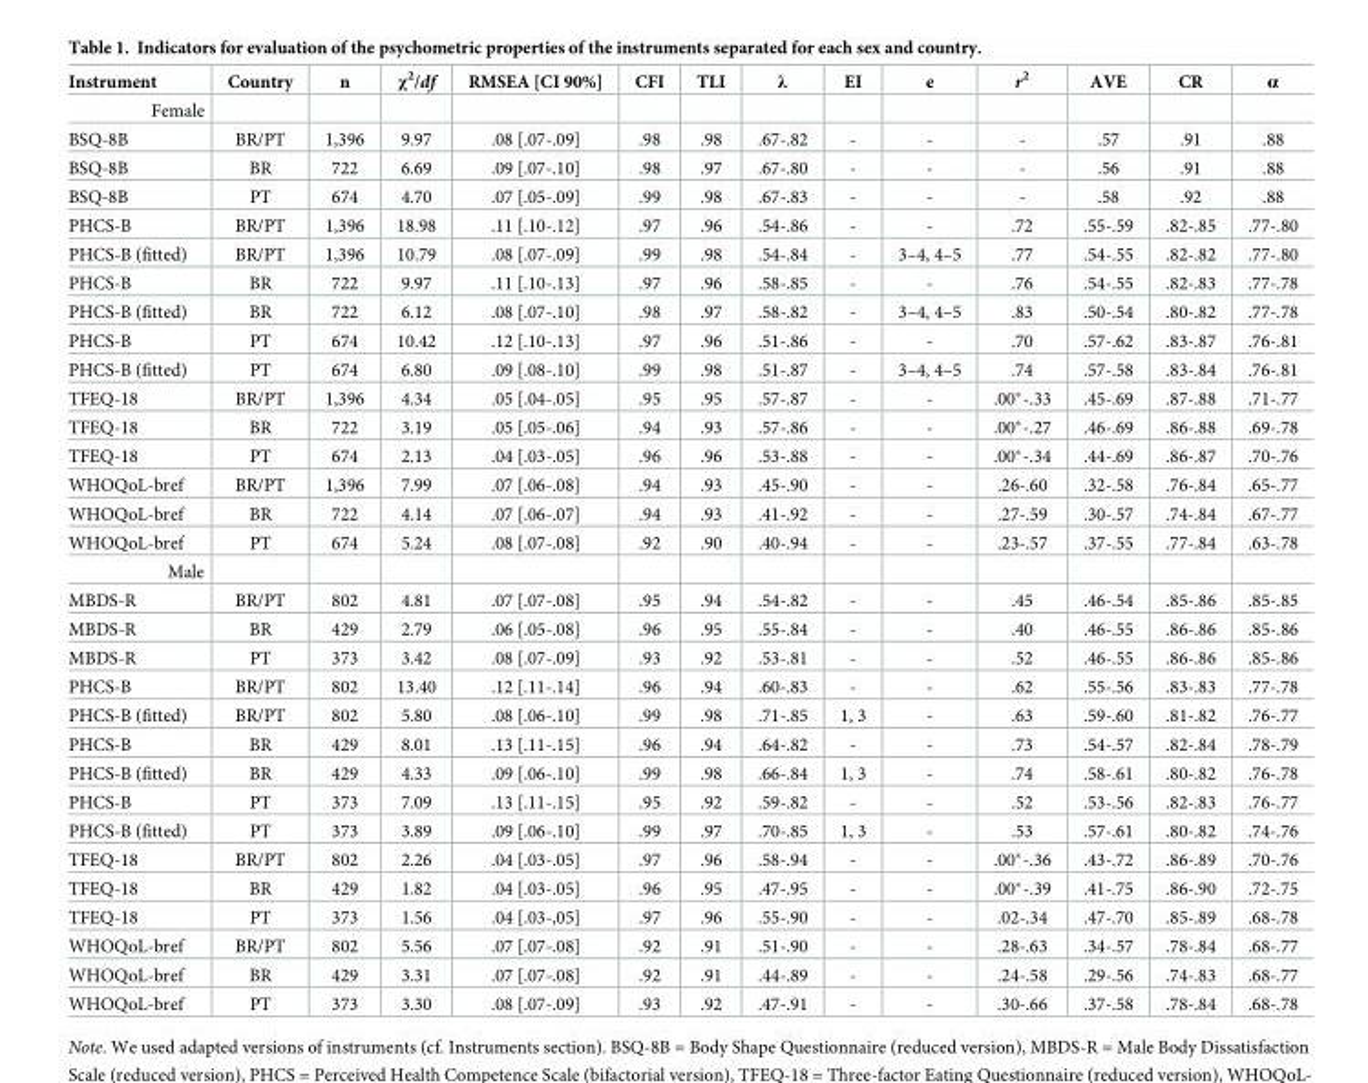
<table><thead><tr><td>Instrument</td><td>Country</td><td>n</td><td>χ<sup>2</sup>/df</td><td>RMSEA [CI 90%]</td><td>CFI</td><td>TLI</td><td>λ</td><td>EI</td><td>e</td><td>r<sup>2</sup></td><td>AVE</td><td>CR</td><td>α</td></tr></thead><tbody><tr><td colspan="14">Female</td></tr><tr><td>BSQ-8B</td><td>BR/PT</td><td>1,396</td><td>9.97</td><td>.08 [.07-.09]</td><td>.98</td><td>.98</td><td>.67-.82</td><td>-</td><td>-</td><td>-</td><td>.57</td><td>.91</td><td>.88</td></tr><tr><td>BSQ-8B</td><td>BR</td><td>722</td><td>6.69</td><td>.09 [.07-.10]</td><td>.98</td><td>.97</td><td>.67-.80</td><td>-</td><td>-</td><td>-</td><td>.56</td><td>.91</td><td>.88</td></tr><tr><td>BSQ-8B</td><td>PT</td><td>674</td><td>4.70</td><td>.07 [.05-.09]</td><td>.99</td><td>.98</td><td>.67-.83</td><td>-</td><td>-</td><td>-</td><td>.58</td><td>.92</td><td>.88</td></tr><tr><td>PHCS-B</td><td>BR/PT</td><td>1,396</td><td>18.98</td><td>.11 [.10-.12]</td><td>.97</td><td>.96</td><td>.54-.86</td><td>-</td><td>-</td><td>.72</td><td>.55-.59</td><td>.82-.85</td><td>.77-.80</td></tr><tr><td>PHCS-B (fitted)</td><td>BR/PT</td><td>1,396</td><td>10.79</td><td>.08 [.07-.09]</td><td>.99</td><td>.98</td><td>.54-.84</td><td>-</td><td>3–4, 4–5</td><td>.77</td><td>.54-.55</td><td>.82-.82</td><td>.77-.80</td></tr><tr><td>PHCS-B</td><td>BR</td><td>722</td><td>9.97</td><td>.11 [.10-.13]</td><td>.97</td><td>.96</td><td>.58-.85</td><td>-</td><td>-</td><td>.76</td><td>.54-.55</td><td>.82-.83</td><td>.77-.78</td></tr><tr><td>PHCS-B (fitted)</td><td>BR</td><td>722</td><td>6.12</td><td>.08 [.07-.10]</td><td>.98</td><td>.97</td><td>.58-.82</td><td>-</td><td>3–4, 4–5</td><td>.83</td><td>.50-.54</td><td>.80-.82</td><td>.77-.78</td></tr><tr><td>PHCS-B</td><td>PT</td><td>674</td><td>10.42</td><td>.12 [.10-.13]</td><td>.97</td><td>.96</td><td>.51-.86</td><td>-</td><td>-</td><td>.70</td><td>.57-.62</td><td>.83-.87</td><td>.76-.81</td></tr><tr><td>PHCS-B (fitted)</td><td>PT</td><td>674</td><td>6.80</td><td>.09 [.08-.10]</td><td>.99</td><td>.98</td><td>.51-.87</td><td>-</td><td>3–4, 4–5</td><td>.74</td><td>.57-.58</td><td>.83-.84</td><td>.76-.81</td></tr><tr><td>TFEQ-18</td><td>BR/PT</td><td>1,396</td><td>4.34</td><td>.05 [.04-.05]</td><td>.95</td><td>.95</td><td>.57-.87</td><td>-</td><td>-</td><td>.00*-.33</td><td>.45-.69</td><td>.87-.88</td><td>.71-.77</td></tr><tr><td>TFEQ-18</td><td>BR</td><td>722</td><td>3.19</td><td>.05 [.05-.06]</td><td>.94</td><td>.93</td><td>.57-.86</td><td>-</td><td>-</td><td>.00*-.27</td><td>.46-.69</td><td>.86-.88</td><td>.69-.78</td></tr><tr><td>TFEQ-18</td><td>PT</td><td>674</td><td>2.13</td><td>.04 [.03-.05]</td><td>.96</td><td>.96</td><td>.53-.88</td><td>-</td><td>-</td><td>.00*-.34</td><td>.44-.69</td><td>.86-.87</td><td>.70-.76</td></tr><tr><td>WHOQoL-bref</td><td>BR/PT</td><td>1,396</td><td>7.99</td><td>.07 [.06-.08]</td><td>.94</td><td>.93</td><td>.45-.90</td><td>-</td><td>-</td><td>.26-.60</td><td>.32-.58</td><td>.76-.84</td><td>.65-.77</td></tr><tr><td>WHOQoL-bref</td><td>BR</td><td>722</td><td>4.14</td><td>.07 [.06-.07]</td><td>.94</td><td>.93</td><td>.41-.92</td><td>-</td><td>-</td><td>.27-.59</td><td>.30-.57</td><td>.74-.84</td><td>.67-.77</td></tr><tr><td>WHOQoL-bref</td><td>PT</td><td>674</td><td>5.24</td><td>.08 [.07-.08]</td><td>.92</td><td>.90</td><td>.40-.94</td><td>-</td><td>-</td><td>.23-.57</td><td>.37-.55</td><td>.77-.84</td><td>.63-.78</td></tr><tr><td colspan="14">Male</td></tr><tr><td>MBDS-R</td><td>BR/PT</td><td>802</td><td>4.81</td><td>.07 [.07-.08]</td><td>.95</td><td>.94</td><td>.54-.82</td><td>-</td><td>-</td><td>.45</td><td>.46-.54</td><td>.85-.86</td><td>.85-.85</td></tr><tr><td>MBDS-R</td><td>BR</td><td>429</td><td>2.79</td><td>.06 [.05-.08]</td><td>.96</td><td>.95</td><td>.55-.84</td><td>-</td><td>-</td><td>.40</td><td>.46-.55</td><td>.86-.86</td><td>.85-.86</td></tr><tr><td>MBDS-R</td><td>PT</td><td>373</td><td>3.42</td><td>.08 [.07-.09]</td><td>.93</td><td>.92</td><td>.53-.81</td><td>-</td><td>-</td><td>.52</td><td>.46-.55</td><td>.86-.86</td><td>.85-.86</td></tr><tr><td>PHCS-B</td><td>BR/PT</td><td>802</td><td>13.40</td><td>.12 [.11-.14]</td><td>.96</td><td>.94</td><td>.60-.83</td><td>-</td><td>-</td><td>.62</td><td>.55-.56</td><td>.83-.83</td><td>.77-.78</td></tr><tr><td>PHCS-B (fitted)</td><td>BR/PT</td><td>802</td><td>5.80</td><td>.08 [.06-.10]</td><td>.99</td><td>.98</td><td>.71-.85</td><td>1, 3</td><td>-</td><td>.63</td><td>.59-.60</td><td>.81-.82</td><td>.76-.77</td></tr><tr><td>PHCS-B</td><td>BR</td><td>429</td><td>8.01</td><td>.13 [.11-.15]</td><td>.96</td><td>.94</td><td>.64-.82</td><td>-</td><td>-</td><td>.73</td><td>.54-.57</td><td>.82-.84</td><td>.78-.79</td></tr><tr><td>PHCS-B (fitted)</td><td>BR</td><td>429</td><td>4.33</td><td>.09 [.06-.10]</td><td>.99</td><td>.98</td><td>.66-.84</td><td>1, 3</td><td>-</td><td>.74</td><td>.58-.61</td><td>.80-.82</td><td>.76-.78</td></tr><tr><td>PHCS-B</td><td>PT</td><td>373</td><td>7.09</td><td>.13 [.11-.15]</td><td>.95</td><td>.92</td><td>.59-.82</td><td>-</td><td>-</td><td>.52</td><td>.53-.56</td><td>.82-.83</td><td>.76-.77</td></tr><tr><td>PHCS-B (fitted)</td><td>PT</td><td>373</td><td>3.89</td><td>.09 [.06-.10]</td><td>.99</td><td>.97</td><td>.70-.85</td><td>1, 3</td><td>-</td><td>.53</td><td>.57-.61</td><td>.80-.82</td><td>.74-.76</td></tr><tr><td>TFEQ-18</td><td>BR/PT</td><td>802</td><td>2.26</td><td>.04 [.03-.05]</td><td>.97</td><td>.96</td><td>.58-.94</td><td>-</td><td>-</td><td>.00*-.36</td><td>.43-.72</td><td>.86-.89</td><td>.70-.76</td></tr><tr><td>TFEQ-18</td><td>BR</td><td>429</td><td>1.82</td><td>.04 [.03-.05]</td><td>.96</td><td>.95</td><td>.47-.95</td><td>-</td><td>-</td><td>.00*-.39</td><td>.41-.75</td><td>.86-.90</td><td>.72-.75</td></tr><tr><td>TFEQ-18</td><td>PT</td><td>373</td><td>1.56</td><td>.04 [.03-,05]</td><td>.97</td><td>.96</td><td>.55-.90</td><td>-</td><td>-</td><td>.02-.34</td><td>.47-.70</td><td>.85-.89</td><td>.68-.78</td></tr><tr><td>WHOQoL-bref</td><td>BR/PT</td><td>802</td><td>5.56</td><td>.07 [.07-.08]</td><td>.92</td><td>.91</td><td>.51-.90</td><td>-</td><td>-</td><td>.28-.63</td><td>.34-.57</td><td>.78-.84</td><td>.68-.77</td></tr><tr><td>WHOQoL-bref</td><td>BR</td><td>429</td><td>3.31</td><td>.07 [.07-.08]</td><td>.92</td><td>.91</td><td>.44-.89</td><td>-</td><td>-</td><td>.24-.58</td><td>.29-.56</td><td>.74-.83</td><td>.68-.77</td></tr><tr><td>WHOQoL-bref</td><td>PT</td><td>373</td><td>3.30</td><td>.08 [.07-.09]</td><td>.93</td><td>.92</td><td>.47-.91</td><td>-</td><td>-</td><td>.30-.66</td><td>.37-.58</td><td>.78-.84</td><td>.68-.78</td></tr></tbody></table>